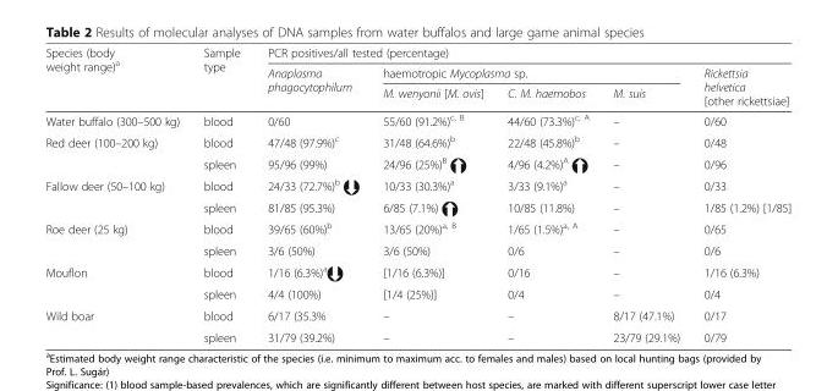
<table><thead><tr><td rowspan="3">Species (body weight range)<sup>a</sup></td><td rowspan="3">Sample type</td><td colspan="5">PCR positives/all tested (percentage)</td></tr><tr><td rowspan="2">Anaplasma phagocytophilum</td><td colspan="3">haemotropic Mycoplasma sp.</td><td rowspan="2">Rickettsia helvetica [other rickettsiae]</td></tr><tr><td>M. wenyonii [M. ovis]</td><td>C. M. haemobos</td><td>M. suis</td></tr></thead><tbody><tr><td>Water buffalo (300–500 kg)</td><td>blood</td><td>0/60</td><td>55/60 (91.2%)<sup>c, B</sup></td><td>44/60 (73.3%)<sup>c, A</sup></td><td>–</td><td>0/60</td></tr><tr><td rowspan="2">Red deer (100–200 kg)</td><td>blood</td><td>47/48 (97.9%)<sup>c</sup></td><td>31/48 (64.6%)<sup>b</sup></td><td>22/48 (45.8%)<sup>b</sup></td><td>–</td><td>0/48</td></tr><tr><td>spleen</td><td>95/96 (99%)</td><td>24/96 (25%)<sup>B</sup></td><td>4/96 (4.2%)<sup>A</sup></td><td>–</td><td>0/96</td></tr><tr><td rowspan="2">Fallow deer (50–100 kg)</td><td>blood</td><td>24/33 (72.7%)<sup>b</sup></td><td>10/33 (30.3%)<sup>a</sup></td><td>3/33 (9.1%)<sup>a</sup></td><td>–</td><td>0/33</td></tr><tr><td>spleen</td><td>81/85 (95.3%)</td><td>6/85 (7.1%)</td><td>10/85 (11.8%)</td><td>–</td><td>1/85 (1.2%) [1/85]</td></tr><tr><td rowspan="2">Roe deer (25 kg)</td><td>blood</td><td>39/65 (60%)<sup>b</sup></td><td>13/65 (20%)<sup>a, B</sup></td><td>1/65 (1.5%)<sup>a, A</sup></td><td>–</td><td>0/65</td></tr><tr><td>spleen</td><td>3/6 (50%)</td><td>3/6 (50%)</td><td>0/6</td><td>–</td><td>0/6</td></tr><tr><td rowspan="2">Mouflon</td><td>blood</td><td>1/16 (6.3%)<sup>a</sup></td><td>[1/16 (6.3%)]</td><td>0/16</td><td>–</td><td>1/16 (6.3%)</td></tr><tr><td>spleen</td><td>4/4 (100%)</td><td>[1/4 (25%)]</td><td>0/4</td><td>–</td><td>0/4</td></tr><tr><td rowspan="2">Wild boar</td><td>blood</td><td>6/17 (35.3%</td><td>–</td><td>–</td><td>8/17 (47.1%)</td><td>0/17</td></tr><tr><td>spleen</td><td>31/79 (39.2%)</td><td>–</td><td>–</td><td>23/79 (29.1%)</td><td>0/79</td></tr></tbody></table>